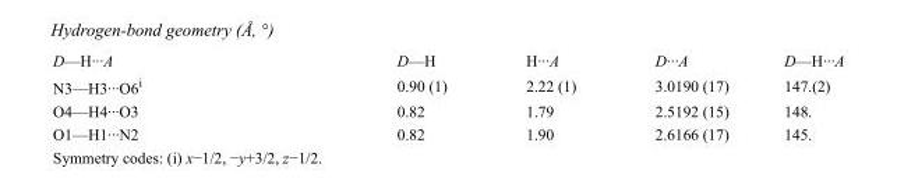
<table><tbody><tr><td>D—H···A</td><td>D—H</td><td>H···A</td><td>D···A</td><td>D—H···A</td></tr><tr><td>N3—H3···O6<sup>i</sup></td><td>0.90 (1)</td><td>2.22 (1)</td><td>3.0190 (17)</td><td>147.(2)</td></tr><tr><td>O4—H4···O3</td><td>0.82</td><td>1.79</td><td>2.5192 (15)</td><td>148.</td></tr><tr><td>O1—H1···N2</td><td>0.82</td><td>1.90</td><td>2.6166 (17)</td><td>145.</td></tr></tbody></table>